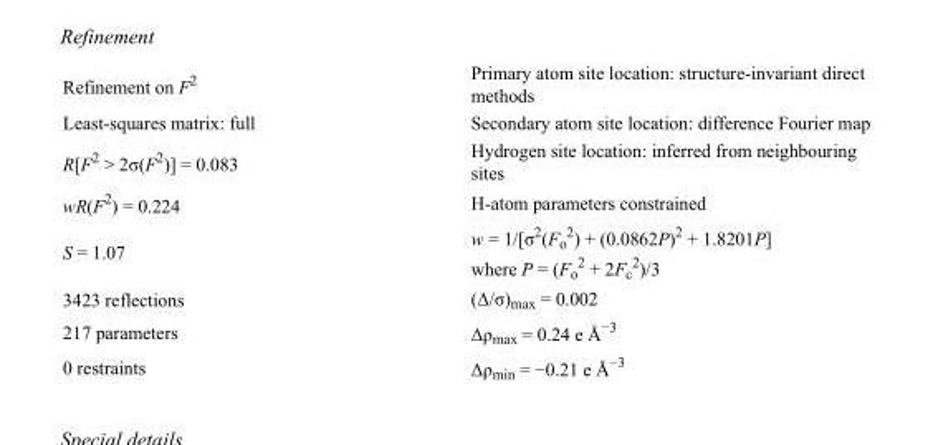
<table><tbody><tr><td>Refinement on F<sup>2</sup></td><td>Primary atom site location: structure-invariant direct methods</td></tr><tr><td>Least-squares matrix: full</td><td>Secondary atom site location: difference Fourier map</td></tr><tr><td>R[F<sup>2</sup> &gt; 2σ(F<sup>2</sup>)] = 0.083</td><td>Hydrogen site location: inferred from neighbouring sites</td></tr><tr><td>wR(F<sup>2</sup>) = 0.224</td><td>H-atom parameters constrained</td></tr><tr><td>S = 1.07</td><td>w = 1/[σ<sup>2</sup>(F<sub>o</sub> <sup>2</sup>) + (0.0862P)<sup>2</sup> + 1.8201P] where P = (F<sub>o</sub> <sup>2</sup> + 2F<sub>c</sub> <sup>2</sup>)/3</td></tr><tr><td>3423 reflections</td><td>(Δ/σ)<sub>max</sub> = 0.002</td></tr><tr><td>217 parameters</td><td>Δρ<sub>max</sub> = 0.24 e Å<sup>−3</sup></td></tr><tr><td>0 restraints</td><td>Δρ<sub>min</sub> = −0.21 e Å<sup>−3</sup></td></tr></tbody></table>